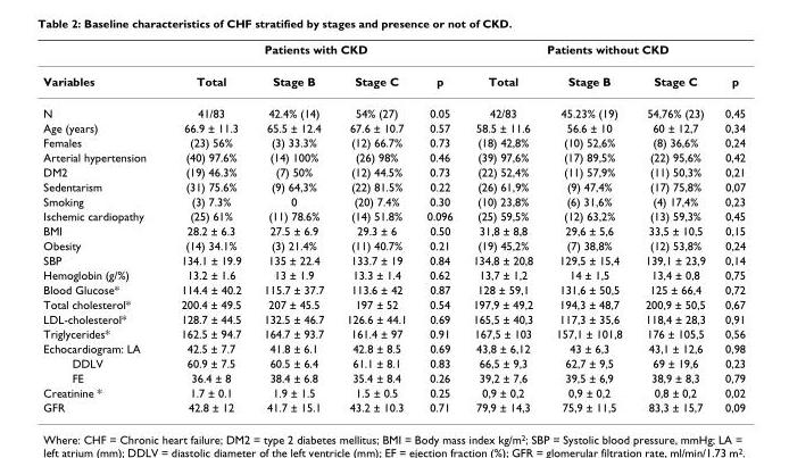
<table><thead><tr><td rowspan="2">Variables</td><td colspan="4">Patients with CKD</td><td colspan="4">Patients without CKD</td></tr><tr><td>Total</td><td>Stage B</td><td>Stage C</td><td>p</td><td>Total</td><td>Stage B</td><td>Stage C</td><td>p</td></tr></thead><tbody><tr><td>N</td><td>41/83</td><td>42.4% (14)</td><td>54% (27)</td><td>0.05</td><td>42/83</td><td>45.23% (19)</td><td>54,76% (23)</td><td>0,45</td></tr><tr><td>Age (years)</td><td>66.9 ± 11.3</td><td>65.5 ± 12.4</td><td>67.6 ± 10.7</td><td>0.57</td><td>58.5 ± 11.6</td><td>56.6 ± 10</td><td>60 ± 12,7</td><td>0,34</td></tr><tr><td>Females</td><td>(23) 56%</td><td>(3) 33.3%</td><td>(12) 66.7%</td><td>0.73</td><td>(18) 42,8%</td><td>(10) 52,6%</td><td>(8) 36,6%</td><td>0,24</td></tr><tr><td>Arterial hypertension</td><td>(40) 97.6%</td><td>(14) 100%</td><td>(26) 98%</td><td>0.46</td><td>(39) 97,6%</td><td>(17) 89,5%</td><td>(22) 95,6%</td><td>0,42</td></tr><tr><td>DM2</td><td>(19) 46.3%</td><td>(7) 50%</td><td>(12) 44.5%</td><td>0.73</td><td>(22) 52,4%</td><td>(11) 57,9%</td><td>(11) 50,3%</td><td>0,21</td></tr><tr><td>Sedentarism</td><td>(31) 75.6%</td><td>(9) 64,3%</td><td>(22) 81.5%</td><td>0.22</td><td>(26) 61,9%</td><td>(9) 47,4%</td><td>(17) 75,8%</td><td>0,07</td></tr><tr><td>Smoking</td><td>(3) 7.3%</td><td>0</td><td>(20) 7.4%</td><td>0.30</td><td>(10) 23,8%</td><td>(6) 31,6%</td><td>(4) 17,4%</td><td>0,23</td></tr><tr><td>Ischemic cardiopathy</td><td>(25) 61%</td><td>(11) 78.6%</td><td>(14) 51.8%</td><td>0.096</td><td>(25) 59,5%</td><td>(12) 63,2%</td><td>(13) 59,3%</td><td>0,45</td></tr><tr><td>BMI</td><td>28.2 ± 6.3</td><td>27.5 ± 6.9</td><td>29.3 ± 6</td><td>0.50</td><td>31,8 ± 8,8</td><td>29,6 ± 5,6</td><td>33,5 ± 10,5</td><td>0,15</td></tr><tr><td>Obesity</td><td>(14) 34.1%</td><td>(3) 21.4%</td><td>(11) 40.7%</td><td>0.21</td><td>(19) 45,2%</td><td>(7) 38,8%</td><td>(12) 53,8%</td><td>0,24</td></tr><tr><td>SBP</td><td>134.1 ± 19.9</td><td>135 ± 22.4</td><td>133.7 ± 19</td><td>0.84</td><td>134,8 ± 20,8</td><td>129,5 ± 15,4</td><td>139,1 ± 23,9</td><td>0,14</td></tr><tr><td>Hemoglobin (g/%)</td><td>13.2 ± 1.6</td><td>13 ± 1.9</td><td>13.3 ± 1.4</td><td>0.62</td><td>13,7 ± 1,2</td><td>14 ± 1,5</td><td>13,4 ± 0,8</td><td>0,75</td></tr><tr><td>Blood Glucose*</td><td>114.4 ± 40.2</td><td>115.7 ± 37.7</td><td>113.6 ± 42</td><td>0.87</td><td>128 ± 59,1</td><td>131,6 ± 50,5</td><td>125 ± 66,4</td><td>0,72</td></tr><tr><td>Total cholesterol*</td><td>200.4 ± 49.5</td><td>207 ± 45.5</td><td>197 ± 52</td><td>0.54</td><td>197,9 ± 49,2</td><td>194,3 ± 48,7</td><td>200,9 ± 50,5</td><td>0,67</td></tr><tr><td>LDL-cholesterol*</td><td>128.7 ± 44.5</td><td>132.5 ± 46.7</td><td>126.6 ± 44.1</td><td>0.69</td><td>165,5 ± 40,3</td><td>117,3 ± 35,6</td><td>118,4 ± 28,3</td><td>0,91</td></tr><tr><td>Triglycerides*</td><td>162.5 ± 94.7</td><td>164.7 ± 93.7</td><td>161.4 ± 97</td><td>0.91</td><td>167,5 ± 103</td><td>157,1 ± 101,8</td><td>176 ± 105,5</td><td>0,56</td></tr><tr><td>Echocardiogram: LA</td><td>42.5 ± 7.7</td><td>41.8 ± 6.1</td><td>42.8 ± 8.5</td><td>0.69</td><td>43,8 ± 6,12</td><td>43 ± 6,3</td><td>43,1 ± 12,6</td><td>0,98</td></tr><tr><td>DDLV</td><td>60.9 ± 7.5</td><td>60.5 ± 6.4</td><td>61.1 ± 8.1</td><td>0.83</td><td>66,5 ± 9,3</td><td>62,7 ± 9,5</td><td>69 ± 19,6</td><td>0,23</td></tr><tr><td>FE</td><td>36.4 ± 8</td><td>38.4 ± 6.8</td><td>35.4 ± 8.4</td><td>0.26</td><td>39,2 ± 7,6</td><td>39,5 ± 6,9</td><td>38,9 ± 8,3</td><td>0,79</td></tr><tr><td>Creatinine *</td><td>1.7 ± 0.1</td><td>1.9 ± 1.5</td><td>1.5 ± 0.5</td><td>0.25</td><td>0,9 ± 0,2</td><td>0,9 ± 0,2</td><td>0,8 ± 0,2</td><td>0,02</td></tr><tr><td>GFR</td><td>42.8 ± 12</td><td>41.7 ± 15.1</td><td>43.2 ± 10.3</td><td>0.71</td><td>79,9 ± 14,3</td><td>75,9 ± 11,5</td><td>83,3 ± 15,7</td><td>0,09</td></tr></tbody></table>